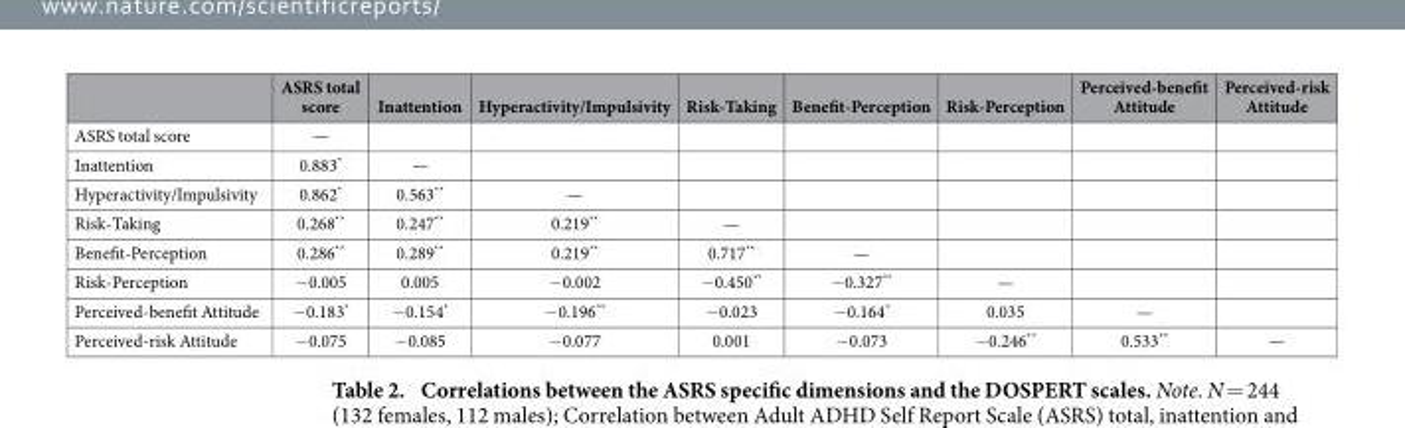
<table><thead><tr><td></td><td>ASRS total score</td><td>Inattention</td><td>Hyperactivity/Impulsivity</td><td>Risk-Taking</td><td>Benefit-Perception</td><td>Risk-Perception</td><td>Perceived-benefit Attitude</td><td>Perceived-risk Attitude</td></tr></thead><tbody><tr><td>ASRS total score</td><td>—</td><td></td><td></td><td></td><td></td><td></td><td></td><td></td></tr><tr><td>Inattention</td><td>0.883*</td><td>—</td><td></td><td></td><td></td><td></td><td></td><td></td></tr><tr><td>Hyperactivity/Impulsivity</td><td>0.862*</td><td>0.563**</td><td>—</td><td></td><td></td><td></td><td></td><td></td></tr><tr><td>Risk-Taking</td><td>0.268**</td><td>0.247**</td><td>0.219**</td><td>—</td><td></td><td></td><td></td><td></td></tr><tr><td>Benefit-Perception</td><td>0.286**</td><td>0.289**</td><td>0.219**</td><td>0.717**</td><td>—</td><td></td><td></td><td></td></tr><tr><td>Risk-Perception</td><td>− 0.005</td><td>0.005</td><td>− 0.002</td><td>− 0.450**</td><td>− 0.327**</td><td>—</td><td></td><td></td></tr><tr><td>Perceived-benefit Attitude</td><td>− 0.183*</td><td>− 0.154*</td><td>− 0.196**</td><td>− 0.023</td><td>− 0.164*</td><td>0.035</td><td>—</td><td></td></tr><tr><td>Perceived-risk Attitude</td><td>− 0.075</td><td>− 0.085</td><td>− 0.077</td><td>0.001</td><td>− 0.073</td><td>− 0.246**</td><td>0.533**</td><td>—</td></tr></tbody></table>